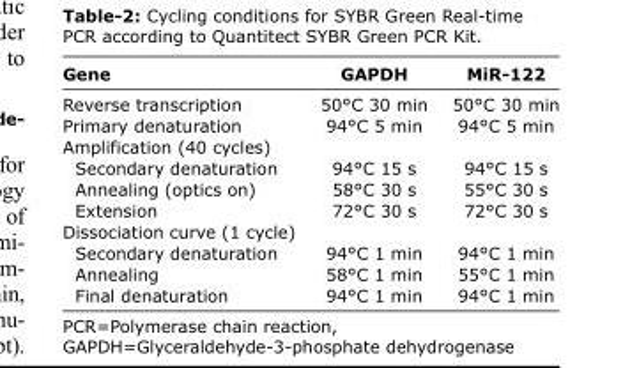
<table><thead><tr><td>Gene</td><td>GAPDH</td><td>MiR-122</td></tr></thead><tbody><tr><td>Reverse transcription</td><td>50°C 30 min</td><td>50°C 30 min</td></tr><tr><td>Primary denaturation</td><td>94°C 5 min</td><td>94°C 5 min</td></tr><tr><td colspan="3">Amplification (40 cycles)</td></tr><tr><td>Secondary denaturation</td><td>94°C 15 s</td><td>94°C 15 s</td></tr><tr><td>Annealing (optics on)</td><td>58°C 30 s</td><td>55°C 30 s</td></tr><tr><td>Extension</td><td>72°C 30 s</td><td>72°C 30 s</td></tr><tr><td colspan="3">Dissociation curve (1 cycle)</td></tr><tr><td>Secondary denaturation</td><td>94°C 1 min</td><td>94°C 1 min</td></tr><tr><td>Annealing</td><td>58°C 1 min</td><td>55°C 1 min</td></tr><tr><td>Final denaturation</td><td>94°C 1 min</td><td>94°C 1 min</td></tr></tbody></table>